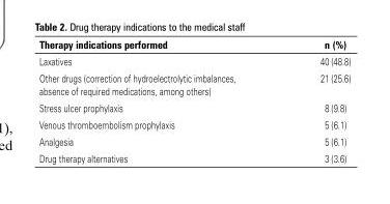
<table><thead><tr><td>Therapy indications performed</td><td>n (%)</td></tr></thead><tbody><tr><td>Laxatives</td><td>40 (48.8)</td></tr><tr><td>Other drugs (correction of hydroelectrolytic imbalances, absence of required medications, among others)</td><td>21 (25.6)</td></tr><tr><td>Stress ulcer prophylaxis</td><td>8 (9.8)</td></tr><tr><td>Venous thromboembolism prophylaxis</td><td>5 (6.1)</td></tr><tr><td>Analgesia</td><td>5 (6.1)</td></tr><tr><td>Drug therapy alternatives</td><td>3 (3.6)</td></tr></tbody></table>